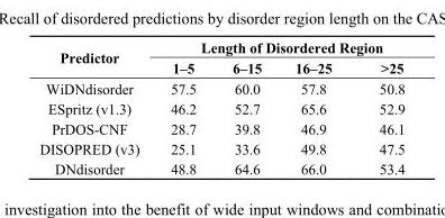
<table><thead><tr><td rowspan="2">Predictor</td><td colspan="4">Length of Disordered Region</td></tr><tr><td>1–5</td><td>6–15</td><td>16–25</td><td>&gt;25</td></tr></thead><tbody><tr><td>WiDNdisorder</td><td>57.5</td><td>60.0</td><td>57.8</td><td>50.8</td></tr><tr><td>ESpritz (v1.3)</td><td>46.2</td><td>52.7</td><td>65.6</td><td>52.9</td></tr><tr><td>PrDOS-CNF</td><td>28.7</td><td>39.8</td><td>46.9</td><td>46.1</td></tr><tr><td>DISOPRED (v3)</td><td>25.1</td><td>33.6</td><td>49.8</td><td>47.5</td></tr><tr><td>DNdisorder</td><td>48.8</td><td>64.6</td><td>66.0</td><td>53.4</td></tr></tbody></table>